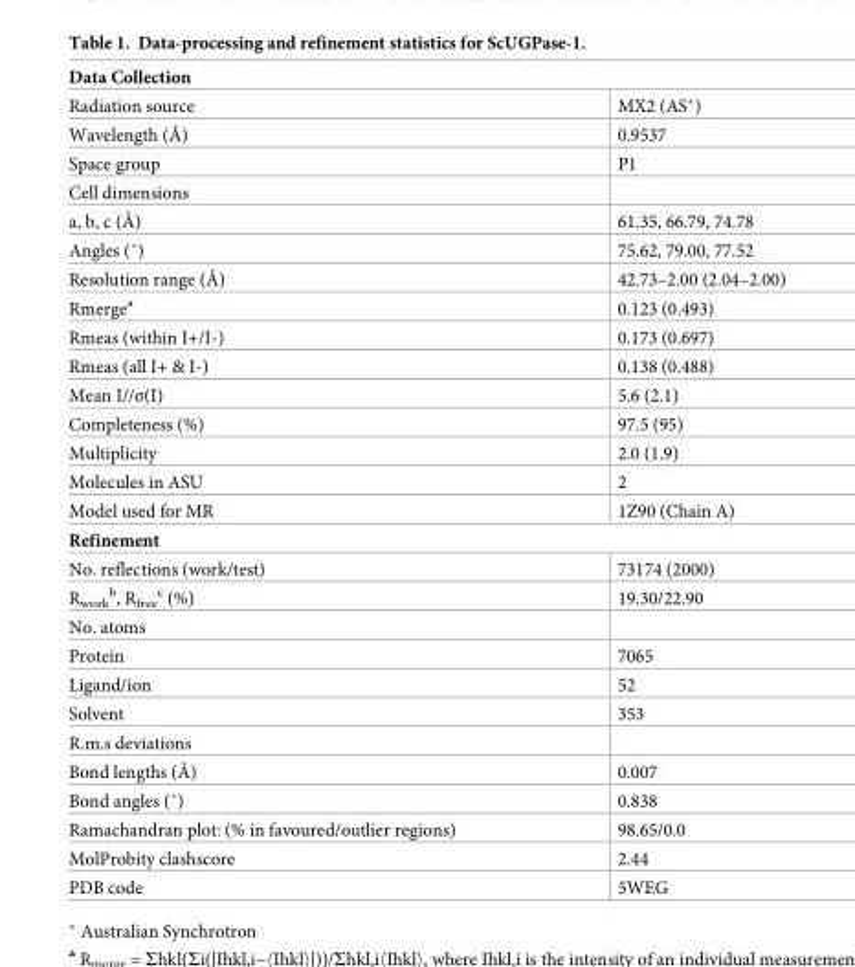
<table><tbody><tr><td colspan="2">Data Collection</td></tr><tr><td>Radiation source</td><td>MX2 (AS*)</td></tr><tr><td>Wavelength (Å)</td><td>0.9537</td></tr><tr><td>Space group</td><td>P1</td></tr><tr><td colspan="2">Cell dimensions</td></tr><tr><td>a, b, c (Å)</td><td>61.35, 66.79, 74.78</td></tr><tr><td>Angles (˚)</td><td>75.62, 79.00, 77.52</td></tr><tr><td>Resolution range (Å)</td><td>42.73–2.00 (2.04–2.00)</td></tr><tr><td>Rmerge<sup>a</sup></td><td>0.123 (0.493)</td></tr><tr><td>Rmeas (within I+/I-)</td><td>0.173 (0.697)</td></tr><tr><td>Rmeas (all I+ &amp; I-)</td><td>0.138 (0.488)</td></tr><tr><td>Mean I//σ(I)</td><td>5.6 (2.1)</td></tr><tr><td>Completeness (%)</td><td>97.5 (95)</td></tr><tr><td>Multiplicity</td><td>2.0 (1.9)</td></tr><tr><td>Molecules in ASU</td><td>2</td></tr><tr><td>Model used for MR</td><td>1Z90 (Chain A)</td></tr><tr><td colspan="2">Refinement</td></tr><tr><td>No. reflections (work/test)</td><td>73174 (2000)</td></tr><tr><td>R<sub>work</sub> <sup>b</sup>, R<sub>free</sub> <sup>c</sup> (%)</td><td>19.30/22.90</td></tr><tr><td colspan="2">No. atoms</td></tr><tr><td>Protein</td><td>7065</td></tr><tr><td>Ligand/ion</td><td>52</td></tr><tr><td>Solvent</td><td>353</td></tr><tr><td colspan="2">R.m.s deviations</td></tr><tr><td>Bond lengths (Å)</td><td>0.007</td></tr><tr><td>Bond angles (˚)</td><td>0.838</td></tr><tr><td>Ramachandran plot: (% in favoured/outlier regions)</td><td>98.65/0.0</td></tr><tr><td>MolProbity clashscore</td><td>2.44</td></tr><tr><td>PDB code</td><td>5WEG</td></tr></tbody></table>